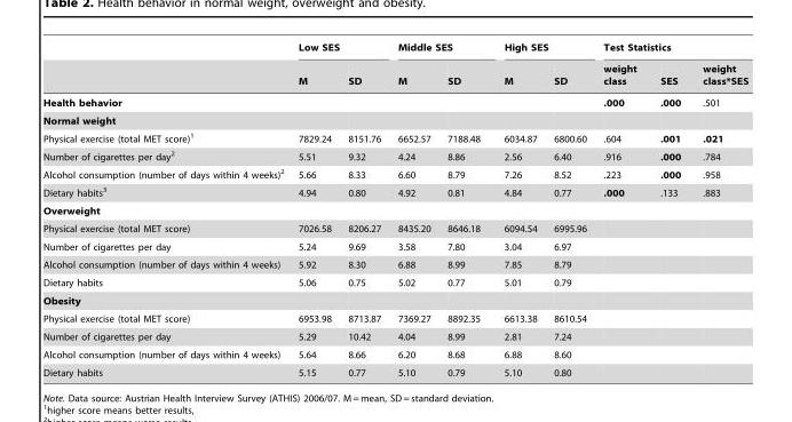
<table><thead><tr><td rowspan="2"></td><td colspan="2">Low SES</td><td colspan="2">Middle SES</td><td colspan="2">High SES</td><td colspan="3">Test Statistics</td></tr><tr><td>M</td><td>SD</td><td>M</td><td>SD</td><td>M</td><td>SD</td><td>weight class</td><td>SES</td><td>weight class*SES</td></tr></thead><tbody><tr><td>Health behavior</td><td></td><td></td><td></td><td></td><td></td><td></td><td>.000</td><td>.000</td><td>.501</td></tr><tr><td colspan="10">Normal weight</td></tr><tr><td>Physical exercise (total MET score)<sup>1</sup></td><td>7829.24</td><td>8151.76</td><td>6652.57</td><td>7188.48</td><td>6034.87</td><td>6800.60</td><td>.604</td><td>.001</td><td>.021</td></tr><tr><td>Number of cigarettes per day<sup>2</sup></td><td>5.51</td><td>9.32</td><td>4.24</td><td>8.86</td><td>2.56</td><td>6.40</td><td>.916</td><td>.000</td><td>.784</td></tr><tr><td>Alcohol consumption (number of days within 4 weeks)<sup>2</sup></td><td>5.66</td><td>8.33</td><td>6.60</td><td>8.79</td><td>7.26</td><td>8.52</td><td>.223</td><td>.000</td><td>.958</td></tr><tr><td>Dietary habits<sup>3</sup></td><td>4.94</td><td>0.80</td><td>4.92</td><td>0.81</td><td>4.84</td><td>0.77</td><td>.000</td><td>.133</td><td>.883</td></tr><tr><td colspan="10">Overweight</td></tr><tr><td>Physical exercise (total MET score)</td><td>7026.58</td><td>8206.27</td><td>8435.20</td><td>8646.18</td><td>6094.54</td><td>6995.96</td><td></td><td></td><td></td></tr><tr><td>Number of cigarettes per day</td><td>5.24</td><td>9.69</td><td>3.58</td><td>7.80</td><td>3.04</td><td>6.97</td><td></td><td></td><td></td></tr><tr><td>Alcohol consumption (number of days within 4 weeks)</td><td>5.92</td><td>8.30</td><td>6.88</td><td>8.99</td><td>7.85</td><td>8.79</td><td></td><td></td><td></td></tr><tr><td>Dietary habits</td><td>5.06</td><td>0.75</td><td>5.02</td><td>0.77</td><td>5.01</td><td>0.79</td><td></td><td></td><td></td></tr><tr><td colspan="10">Obesity</td></tr><tr><td>Physical exercise (total MET score)</td><td>6953.98</td><td>8713.87</td><td>7369.27</td><td>8892.35</td><td>6613.38</td><td>8610.54</td><td></td><td></td><td></td></tr><tr><td>Number of cigarettes per day</td><td>5.29</td><td>10.42</td><td>4.04</td><td>8.99</td><td>2.81</td><td>7.24</td><td></td><td></td><td></td></tr><tr><td>Alcohol consumption (number of days within 4 weeks)</td><td>5.64</td><td>8.66</td><td>6.20</td><td>8.68</td><td>6.88</td><td>8.60</td><td></td><td></td><td></td></tr><tr><td>Dietary habits</td><td>5.15</td><td>0.77</td><td>5.10</td><td>0.79</td><td>5.10</td><td>0.80</td><td></td><td></td><td></td></tr></tbody></table>